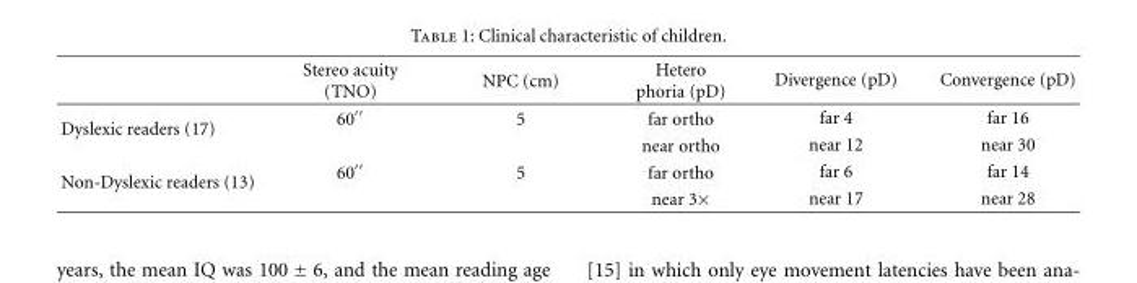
<table><thead><tr><td></td><td>Stereo acuity (TNO)</td><td>NPC (cm)</td><td>Hetero phoria (pD)</td><td>Divergence (pD)</td><td>Convergence (pD)</td></tr></thead><tbody><tr><td rowspan="2">Dyslexic readers (17)</td><td>60′′</td><td>5</td><td>far ortho</td><td>far 4</td><td>far 16</td></tr><tr><td></td><td></td><td>near ortho</td><td>near 12</td><td>near 30</td></tr><tr><td rowspan="2">Non-Dyslexic readers (13)</td><td>60′′</td><td>5</td><td>far ortho</td><td>far 6</td><td>far 14</td></tr><tr><td></td><td></td><td>near 3×</td><td>near 17</td><td>near 28</td></tr></tbody></table>